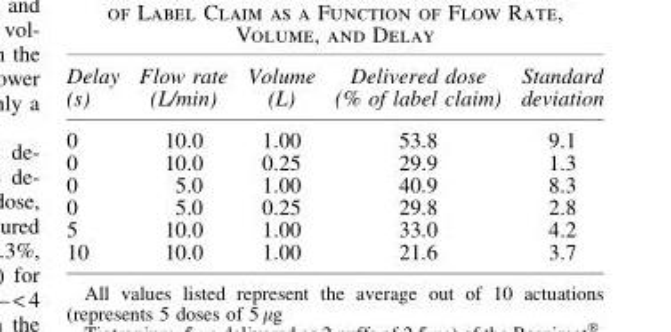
<table><thead><tr><td>Delay (s)</td><td>Flow rate (L/min)</td><td>Volume (L)</td><td>Delivered dose (% of label claim)</td><td>Standard deviation</td></tr></thead><tbody><tr><td>0</td><td>10.0</td><td>1.00</td><td>53.8</td><td>9.1</td></tr><tr><td>0</td><td>10.0</td><td>0.25</td><td>29.9</td><td>1.3</td></tr><tr><td>0</td><td>5.0</td><td>1.00</td><td>40.9</td><td>8.3</td></tr><tr><td>0</td><td>5.0</td><td>0.25</td><td>29.8</td><td>2.8</td></tr><tr><td>5</td><td>10.0</td><td>1.00</td><td>33.0</td><td>4.2</td></tr><tr><td>10</td><td>10.0</td><td>1.00</td><td>21.6</td><td>3.7</td></tr></tbody></table>